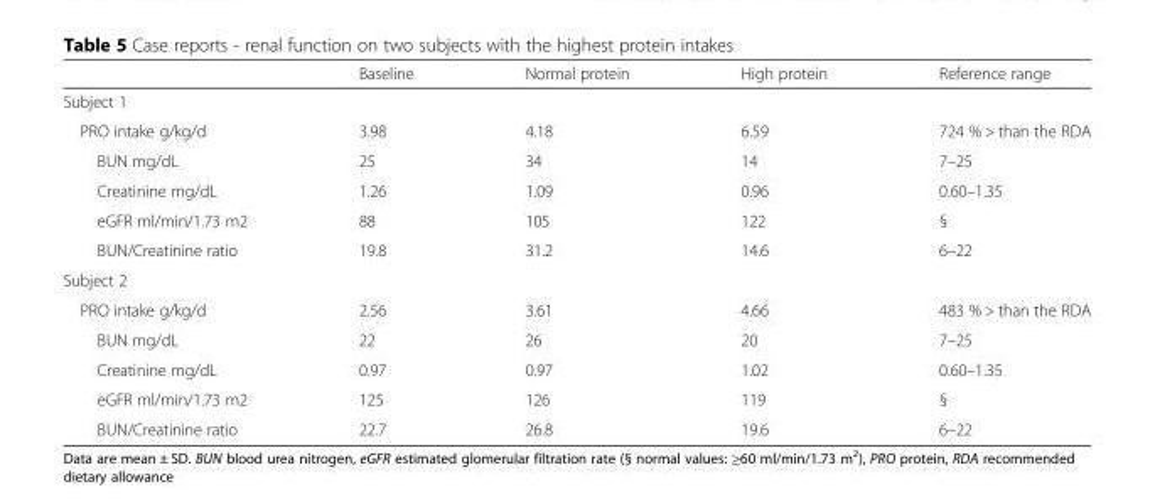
<table><thead><tr><td></td><td>Baseline</td><td>Normal protein</td><td>High protein</td><td>Reference range</td></tr></thead><tbody><tr><td colspan="5">Subject 1</td></tr><tr><td>PRO intake g/kg/d</td><td>3.98</td><td>4.18</td><td>6.59</td><td>724 % &gt; than the RDA</td></tr><tr><td>BUN mg/dL</td><td>25</td><td>34</td><td>14</td><td>7–25</td></tr><tr><td>Creatinine mg/dL</td><td>1.26</td><td>1.09</td><td>0.96</td><td>0.60–1.35</td></tr><tr><td>eGFR ml/min/1.73 m2</td><td>88</td><td>105</td><td>122</td><td>§</td></tr><tr><td>BUN/Creatinine ratio</td><td>19.8</td><td>31.2</td><td>14.6</td><td>6–22</td></tr><tr><td colspan="5">Subject 2</td></tr><tr><td>PRO intake g/kg/d</td><td>2.56</td><td>3.61</td><td>4.66</td><td>483 % &gt; than the RDA</td></tr><tr><td>BUN mg/dL</td><td>22</td><td>26</td><td>20</td><td>7–25</td></tr><tr><td>Creatinine mg/dL</td><td>0.97</td><td>0.97</td><td>1.02</td><td>0.60–1.35</td></tr><tr><td>eGFR ml/min/1.73 m2</td><td>125</td><td>126</td><td>119</td><td>§</td></tr><tr><td>BUN/Creatinine ratio</td><td>22.7</td><td>26.8</td><td>19.6</td><td>6–22</td></tr></tbody></table>